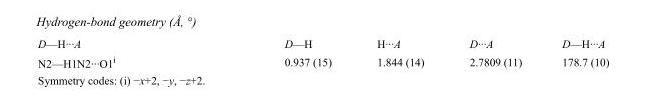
<table><tbody><tr><td>D—H···A</td><td>D—H</td><td>H···A</td><td>D···A</td><td>D—H···A</td></tr><tr><td>N2—H1N2···O1<sup>i</sup></td><td>0.937 (15)</td><td>1.844 (14)</td><td>2.7809 (11)</td><td>178.7 (10)</td></tr></tbody></table>